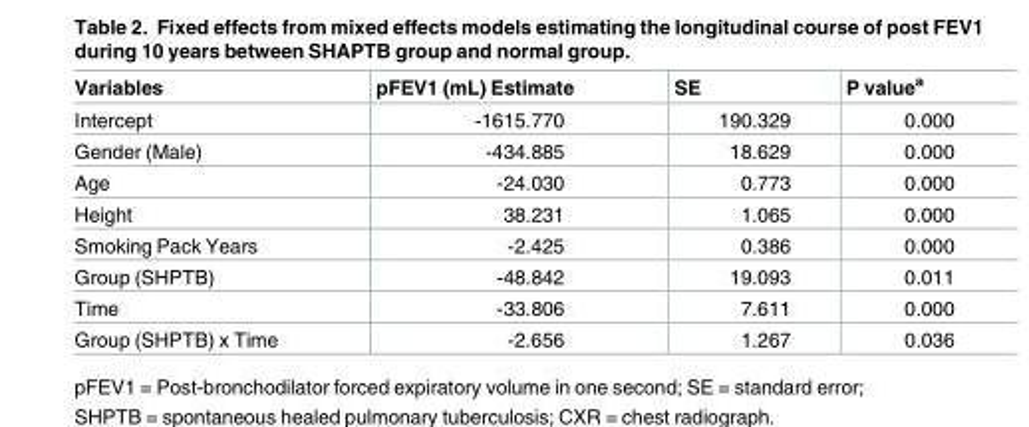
<table><thead><tr><td>Variables</td><td>pFEV1 (mL) Estimate</td><td>SE</td><td>P value<sup>a</sup></td></tr></thead><tbody><tr><td>Intercept</td><td>-1615.770</td><td>190.329</td><td>0.000</td></tr><tr><td>Gender (Male)</td><td>-434.885</td><td>18.629</td><td>0.000</td></tr><tr><td>Age</td><td>-24.030</td><td>0.773</td><td>0.000</td></tr><tr><td>Height</td><td>38.231</td><td>1.065</td><td>0.000</td></tr><tr><td>Smoking Pack Years</td><td>-2.425</td><td>0.386</td><td>0.000</td></tr><tr><td>Group (SHPTB)</td><td>-48.842</td><td>19.093</td><td>0.011</td></tr><tr><td>Time</td><td>-33.806</td><td>7.611</td><td>0.000</td></tr><tr><td>Group (SHPTB) x Time</td><td>-2.656</td><td>1.267</td><td>0.036</td></tr></tbody></table>